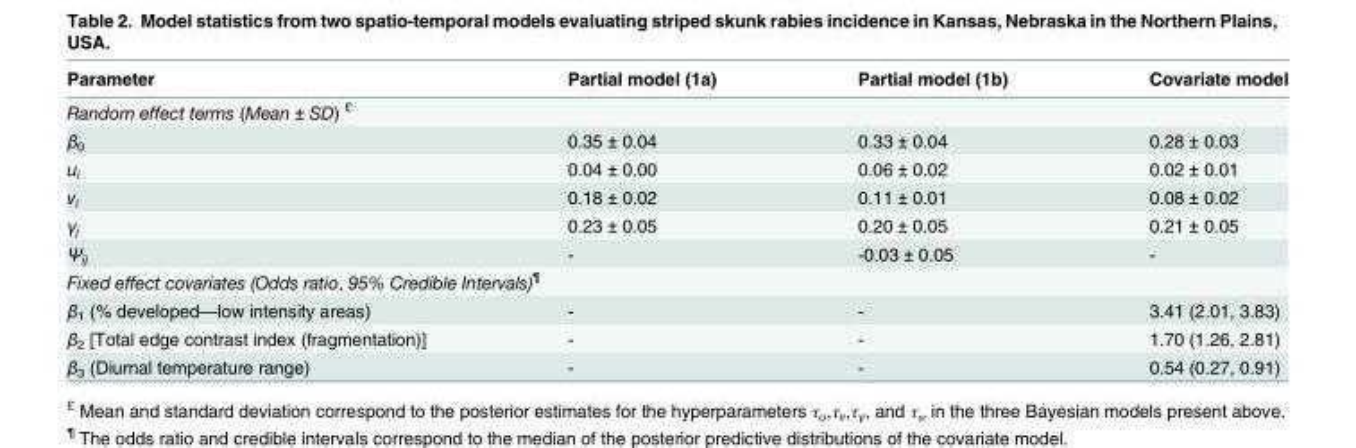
<table><thead><tr><td>Parameter</td><td>Partial model (1a)</td><td>Partial model (1b)</td><td>Covariate model</td></tr></thead><tbody><tr><td colspan="4">Random effect terms (Mean ± SD) <sup>£</sup></td></tr><tr><td>β<sub>0</sub></td><td>0.35 ± 0.04</td><td>0.33 ± 0.04</td><td>0.28 ± 0.03</td></tr><tr><td>u<sub>i</sub></td><td>0.04 ± 0.00</td><td>0.06 ± 0.02</td><td>0.02 ± 0.01</td></tr><tr><td>v<sub>i</sub></td><td>0.18 ± 0.02</td><td>0.11 ± 0.01</td><td>0.08 ± 0.02</td></tr><tr><td>γ<sub>j</sub></td><td>0.23 ± 0.05</td><td>0.20 ± 0.05</td><td>0.21 ± 0.05</td></tr><tr><td>Ψ<sub>ij</sub></td><td>-</td><td>-0.03 ± 0.05</td><td>-</td></tr><tr><td colspan="4">Fixed effect covariates (Odds ratio, 95% Credible Intervals)<sup>¶</sup></td></tr><tr><td>β<sub>1</sub> (% developed—low intensity areas)</td><td>-</td><td>-</td><td>3.41 (2.01, 3.83)</td></tr><tr><td>β<sub>2</sub> [Total edge contrast index (fragmentation)]</td><td>-</td><td>-</td><td>1.70 (1.26, 2.81)</td></tr><tr><td>β<sub>3</sub> (Diurnal temperature range)</td><td>-</td><td>-</td><td>0.54 (0.27, 0.91)</td></tr></tbody></table>